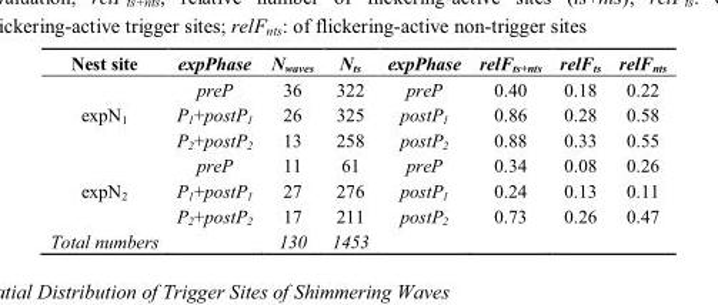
<table><thead><tr><td>Nest site</td><td>expPhase</td><td>N<sub>waves</sub></td><td>N<sub>ts</sub></td><td>expPhase</td><td>relF<sub>ts+nts</sub></td><td>relF<sub>ts</sub></td><td>relF<sub>nts</sub></td></tr></thead><tbody><tr><td rowspan="3">expN<sub>1</sub></td><td>preP</td><td>36</td><td>322</td><td>preP</td><td>0.40</td><td>0.18</td><td>0.22</td></tr><tr><td>P<sub>1</sub>+postP<sub>1</sub></td><td>26</td><td>325</td><td>postP<sub>1</sub></td><td>0.86</td><td>0.28</td><td>0.58</td></tr><tr><td>P<sub>2</sub>+postP<sub>2</sub></td><td>13</td><td>258</td><td>postP<sub>2</sub></td><td>0.88</td><td>0.33</td><td>0.55</td></tr><tr><td rowspan="3">expN<sub>2</sub></td><td>preP</td><td>11</td><td>61</td><td>preP</td><td>0.34</td><td>0.08</td><td>0.26</td></tr><tr><td>P<sub>1</sub>+postP<sub>1</sub></td><td>27</td><td>276</td><td>postP<sub>1</sub></td><td>0.24</td><td>0.13</td><td>0.11</td></tr><tr><td>P<sub>2</sub>+postP<sub>2</sub></td><td>17</td><td>211</td><td>postP<sub>2</sub></td><td>0.73</td><td>0.26</td><td>0.47</td></tr><tr><td>Total numbers</td><td></td><td>130</td><td>1453</td><td></td><td></td><td></td><td></td></tr></tbody></table>